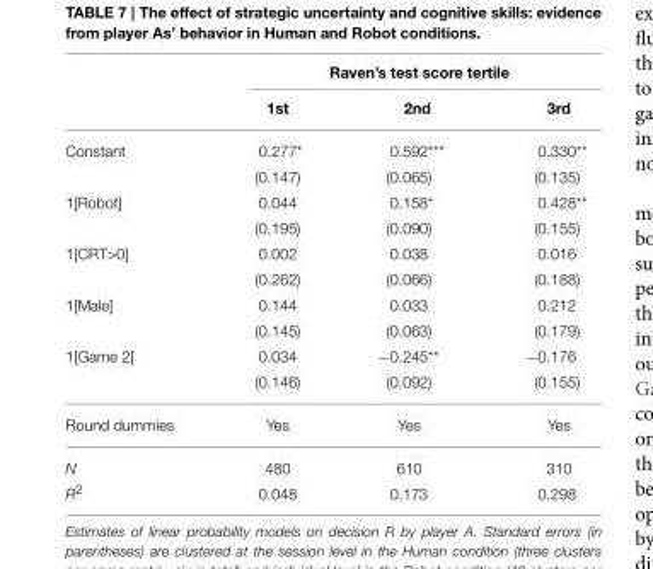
<table><thead><tr><td rowspan="2"></td><td colspan="3">Raven’s test score tertile</td></tr><tr><td>1st</td><td>2nd</td><td>3rd</td></tr></thead><tbody><tr><td rowspan="2">Constant</td><td>0.277*</td><td>0.592***</td><td>0.330**</td></tr><tr><td>(0.147)</td><td>(0.065)</td><td>(0.135)</td></tr><tr><td rowspan="2">1[Robot]</td><td>0.044</td><td>0.158*</td><td>0.428**</td></tr><tr><td>(0.195)</td><td>(0.090)</td><td>(0.155)</td></tr><tr><td rowspan="2">1[CRT&gt;0]</td><td>0.002</td><td>0.038</td><td>0.016</td></tr><tr><td>(0.262)</td><td>(0.066)</td><td>(0.188)</td></tr><tr><td rowspan="2">1[Male]</td><td>0.144</td><td>0.033</td><td>0.212</td></tr><tr><td>(0.145)</td><td>(0.063)</td><td>(0.179)</td></tr><tr><td rowspan="2">1[Game 2]</td><td>0.034</td><td>−0.245**</td><td>−0.176</td></tr><tr><td>(0.146)</td><td>(0.092)</td><td>(0.155)</td></tr><tr><td>Round dummies</td><td>Yes</td><td>Yes</td><td>Yes</td></tr><tr><td>N</td><td>480</td><td>610</td><td>310</td></tr><tr><td>R<sup>2</sup></td><td>0.048</td><td>0.173</td><td>0.298</td></tr></tbody></table>